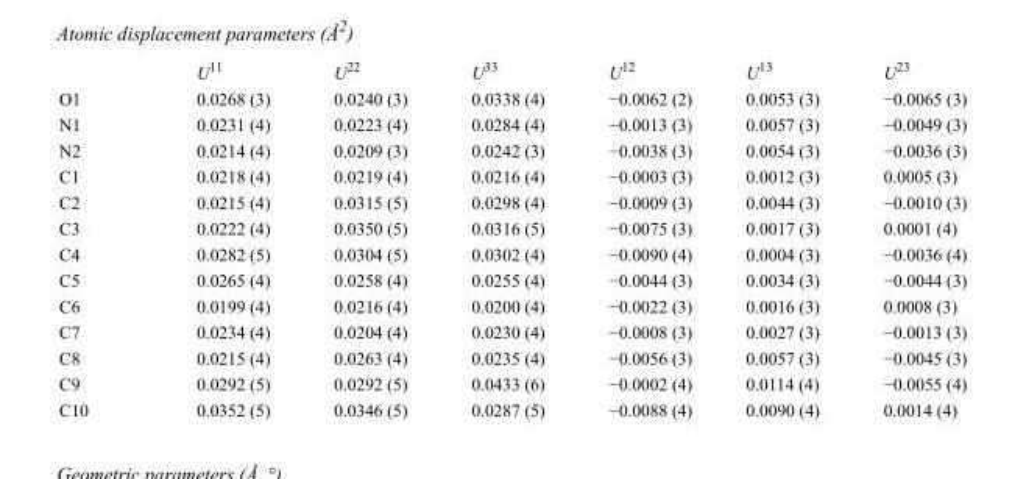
<table><thead><tr><td></td><td>U<sup>11</sup></td><td>U<sup>22</sup></td><td>U<sup>33</sup></td><td>U<sup>12</sup></td><td>U<sup>13</sup></td><td>U<sup>23</sup></td></tr></thead><tbody><tr><td>O1</td><td>0.0268 (3)</td><td>0.0240 (3)</td><td>0.0338 (4)</td><td>−0.0062 (2)</td><td>0.0053 (3)</td><td>−0.0065 (3)</td></tr><tr><td>N1</td><td>0.0231 (4)</td><td>0.0223 (4)</td><td>0.0284 (4)</td><td>−0.0013 (3)</td><td>0.0057 (3)</td><td>−0.0049 (3)</td></tr><tr><td>N2</td><td>0.0214 (4)</td><td>0.0209 (3)</td><td>0.0242 (3)</td><td>−0.0038 (3)</td><td>0.0054 (3)</td><td>−0.0036 (3)</td></tr><tr><td>C1</td><td>0.0218 (4)</td><td>0.0219 (4)</td><td>0.0216 (4)</td><td>−0.0003 (3)</td><td>0.0012 (3)</td><td>0.0005 (3)</td></tr><tr><td>C2</td><td>0.0215 (4)</td><td>0.0315 (5)</td><td>0.0298 (4)</td><td>−0.0009 (3)</td><td>0.0044 (3)</td><td>−0.0010 (3)</td></tr><tr><td>C3</td><td>0.0222 (4)</td><td>0.0350 (5)</td><td>0.0316 (5)</td><td>−0.0075 (3)</td><td>0.0017 (3)</td><td>0.0001 (4)</td></tr><tr><td>C4</td><td>0.0282 (5)</td><td>0.0304 (5)</td><td>0.0302 (4)</td><td>−0.0090 (4)</td><td>0.0004 (3)</td><td>−0.0036 (4)</td></tr><tr><td>C5</td><td>0.0265 (4)</td><td>0.0258 (4)</td><td>0.0255 (4)</td><td>−0.0044 (3)</td><td>0.0034 (3)</td><td>−0.0044 (3)</td></tr><tr><td>C6</td><td>0.0199 (4)</td><td>0.0216 (4)</td><td>0.0200 (4)</td><td>−0.0022 (3)</td><td>0.0016 (3)</td><td>0.0008 (3)</td></tr><tr><td>C7</td><td>0.0234 (4)</td><td>0.0204 (4)</td><td>0.0230 (4)</td><td>−0.0008 (3)</td><td>0.0027 (3)</td><td>−0.0013 (3)</td></tr><tr><td>C8</td><td>0.0215 (4)</td><td>0.0263 (4)</td><td>0.0235 (4)</td><td>−0.0056 (3)</td><td>0.0057 (3)</td><td>−0.0045 (3)</td></tr><tr><td>C9</td><td>0.0292 (5)</td><td>0.0292 (5)</td><td>0.0433 (6)</td><td>−0.0002 (4)</td><td>0.0114 (4)</td><td>−0.0055 (4)</td></tr><tr><td>C10</td><td>0.0352 (5)</td><td>0.0346 (5)</td><td>0.0287 (5)</td><td>−0.0088 (4)</td><td>0.0090 (4)</td><td>0.0014 (4)</td></tr></tbody></table>